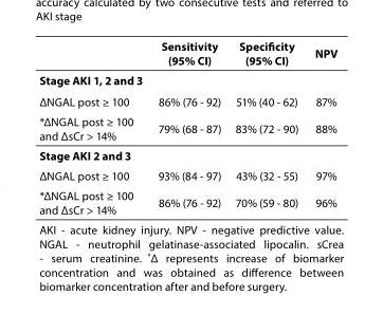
<table><thead><tr><td></td><td>Sensitivity (95% CI)</td><td>Specificity (95% CI)</td><td>NPV</td></tr></thead><tbody><tr><td colspan="4">Stage AKI 1, 2 and 3</td></tr><tr><td>ΔNGAL post ≥ 100</td><td>86% (76 - 92)</td><td>51% (40 - 62)</td><td>87%</td></tr><tr><td>*ΔNGAL post ≥ 100 and ΔsCr &gt; 14%</td><td>79% (68 - 87)</td><td>83% (72 - 90)</td><td>88%</td></tr><tr><td colspan="4">Stage AKI 2 and 3</td></tr><tr><td>ΔNGAL post ≥ 100</td><td>93% (84 - 97)</td><td>43% (32 - 55)</td><td>97%</td></tr><tr><td>*ΔNGAL post ≥ 100 and ΔsCr &gt; 14%</td><td>86% (76 - 92)</td><td>70% (59 - 80)</td><td>96%</td></tr><tr><td colspan="4">AKI - acute kidney injury. NPV - negative predictive value. NGAL - neutrophil gelatinase-associated lipocalin. sCrea - serum creatinine. *Δ represents increase of biomarker concentration and was obtained as difference between biomarker concentration after and before surgery.</td></tr></tbody></table>